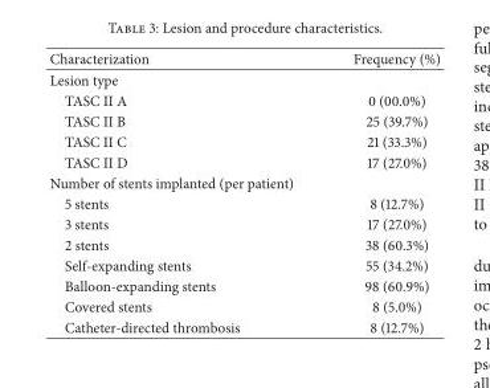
<table><thead><tr><td>Characterization</td><td>Frequency (%)</td></tr></thead><tbody><tr><td colspan="2">Lesion type</td></tr><tr><td>TASC II A</td><td>0 (00.0%)</td></tr><tr><td>TASC II B</td><td>25 (39.7%)</td></tr><tr><td>TASC II C</td><td>21 (33.3%)</td></tr><tr><td>TASC II D</td><td>17 (27.0%)</td></tr><tr><td colspan="2">Number of stents implanted (per patient)</td></tr><tr><td>5 stents</td><td>8 (12.7%)</td></tr><tr><td>3 stents</td><td>17 (27.0%)</td></tr><tr><td>2 stents</td><td>38 (60.3%)</td></tr><tr><td>Self-expanding stents</td><td>55 (34.2%)</td></tr><tr><td>Balloon-expanding stents</td><td>98 (60.9%)</td></tr><tr><td>Covered stents</td><td>8 (5.0%)</td></tr><tr><td>Catheter-directed thrombosis</td><td>8 (12.7%)</td></tr></tbody></table>